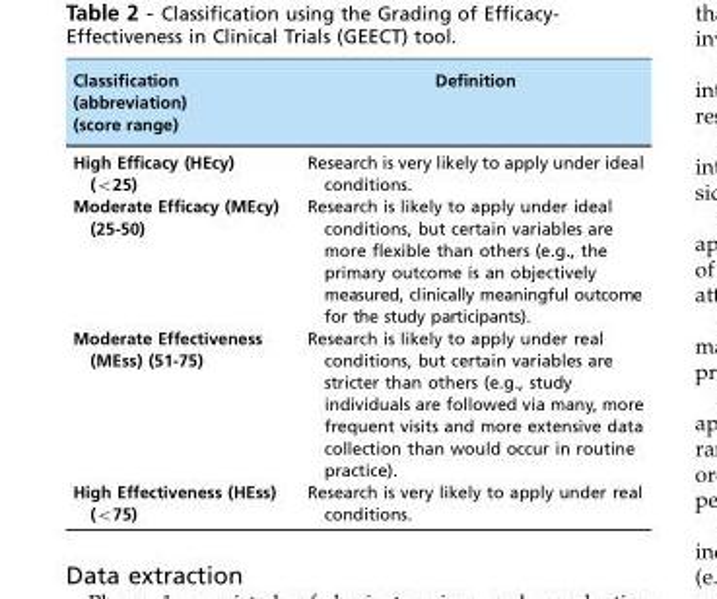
<table><thead><tr><td>Classification (abbreviation) (score range)</td><td>Definition</td></tr></thead><tbody><tr><td>High Efficacy (HEcy) (&lt;25)</td><td>Research is very likely to apply under ideal conditions.</td></tr><tr><td>Moderate Efficacy (MEcy) (25-50)</td><td>Research is likely to apply under ideal conditions, but certain variables are more flexible than others (e.g., the primary outcome is an objectively measured, clinically meaningful outcome for the study participants).</td></tr><tr><td>Moderate Effectiveness (MEss) (51-75)</td><td>Research is likely to apply under real conditions, but certain variables are stricter than others (e.g., study individuals are followed via many, more frequent visits and more extensive data collection than would occur in routine practice).</td></tr><tr><td>High Effectiveness (HEss) (&lt;75)</td><td>Research is very likely to apply under real conditions.</td></tr></tbody></table>